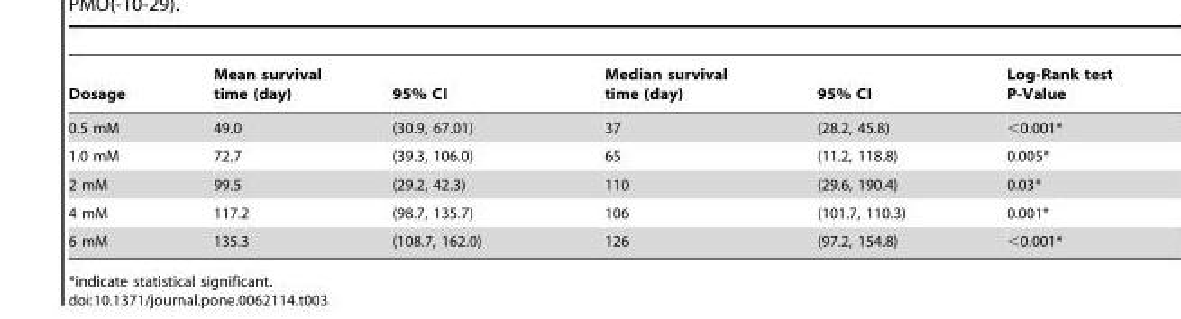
<table><thead><tr><td>Dosage</td><td>Mean survival time (day)</td><td>95% CI</td><td>Median survival time (day)</td><td>95% CI</td><td>Log-Rank test P-Value</td></tr></thead><tbody><tr><td>0.5 mM</td><td>49.0</td><td>(30.9, 67.01)</td><td>37</td><td>(28.2, 45.8)</td><td>&lt;0.001*</td></tr><tr><td>1.0 mM</td><td>72.7</td><td>(39.3, 106.0)</td><td>65</td><td>(11.2, 118.8)</td><td>0.005*</td></tr><tr><td>2 mM</td><td>99.5</td><td>(29.2, 42.3)</td><td>110</td><td>(29.6, 190.4)</td><td>0.03*</td></tr><tr><td>4 mM</td><td>117.2</td><td>(98.7, 135.7)</td><td>106</td><td>(101.7, 110.3)</td><td>0.001*</td></tr><tr><td>6 mM</td><td>135.3</td><td>(108.7, 162.0)</td><td>126</td><td>(97.2, 154.8)</td><td>&lt;0.001*</td></tr></tbody></table>